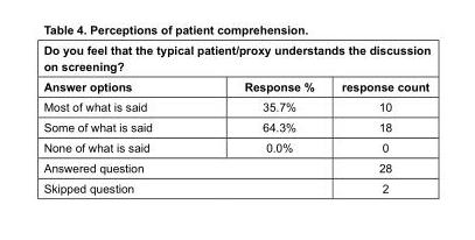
<table><thead><tr><td colspan="3">Do you feel that the typical patient/proxy understands the discussion on screening?</td></tr><tr><td>Answer options</td><td>Response %</td><td>response count</td></tr></thead><tbody><tr><td>Most of what is said</td><td>35.7%</td><td>10</td></tr><tr><td>Some of what is said</td><td>64.3%</td><td>18</td></tr><tr><td>None of what is said</td><td>0.0%</td><td>0</td></tr><tr><td colspan="2">Answered question</td><td>28</td></tr><tr><td colspan="2">Skipped question</td><td>2</td></tr></tbody></table>